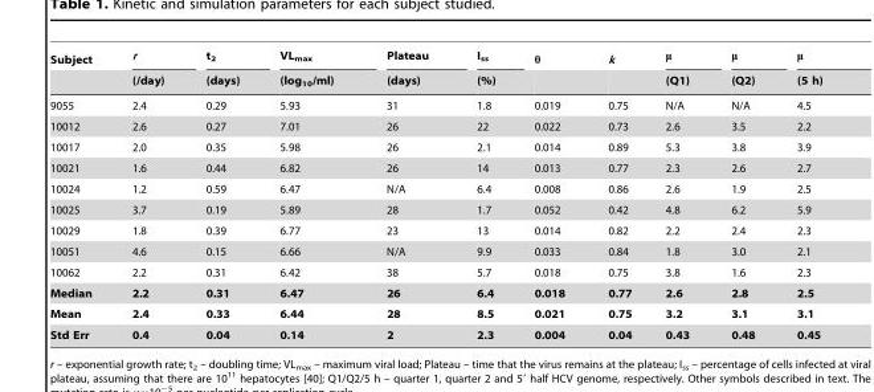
<table><thead><tr><td rowspan="2">Subject</td><td rowspan="2">r (/day)</td><td rowspan="2">t<sub>2</sub> (days)</td><td rowspan="2">VL<sub>max</sub> (log<sub>10</sub>/ml)</td><td rowspan="2">Plateau (days)</td><td rowspan="2">I<sub>ss</sub> (%)</td><td rowspan="2">θ</td><td rowspan="2">k</td><td rowspan="2">μ (Q1)</td><td rowspan="2">μ (Q2)</td><td rowspan="2">μ (5 h)</td></tr><tr></tr></thead><tbody><tr><td>9055</td><td>2.4</td><td>0.29</td><td>5.93</td><td>31</td><td>1.8</td><td>0.019</td><td>0.75</td><td>N/A</td><td>N/A</td><td>4.5</td></tr><tr><td>10012</td><td>2.6</td><td>0.27</td><td>7.01</td><td>26</td><td>22</td><td>0.022</td><td>0.73</td><td>2.6</td><td>3.5</td><td>2.2</td></tr><tr><td>10017</td><td>2.0</td><td>0.35</td><td>5.98</td><td>26</td><td>2.1</td><td>0.014</td><td>0.89</td><td>5.3</td><td>3.8</td><td>3.9</td></tr><tr><td>10021</td><td>1.6</td><td>0.44</td><td>6.82</td><td>26</td><td>14</td><td>0.013</td><td>0.77</td><td>2.3</td><td>2.6</td><td>2.7</td></tr><tr><td>10024</td><td>1.2</td><td>0.59</td><td>6.47</td><td>N/A</td><td>6.4</td><td>0.008</td><td>0.86</td><td>2.6</td><td>1.9</td><td>2.5</td></tr><tr><td>10025</td><td>3.7</td><td>0.19</td><td>5.89</td><td>28</td><td>1.7</td><td>0.052</td><td>0.42</td><td>4.8</td><td>6.2</td><td>5.9</td></tr><tr><td>10029</td><td>1.8</td><td>0.39</td><td>6.77</td><td>23</td><td>13</td><td>0.014</td><td>0.82</td><td>2.2</td><td>2.4</td><td>2.3</td></tr><tr><td>10051</td><td>4.6</td><td>0.15</td><td>6.66</td><td>N/A</td><td>9.9</td><td>0.033</td><td>0.84</td><td>1.8</td><td>3.0</td><td>2.1</td></tr><tr><td>10062</td><td>2.2</td><td>0.31</td><td>6.42</td><td>38</td><td>5.7</td><td>0.018</td><td>0.75</td><td>3.8</td><td>1.6</td><td>2.3</td></tr><tr><td>Median</td><td>2.2</td><td>0.31</td><td>6.47</td><td>26</td><td>6.4</td><td>0.018</td><td>0.77</td><td>2.6</td><td>2.8</td><td>2.5</td></tr><tr><td>Mean</td><td>2.4</td><td>0.33</td><td>6.44</td><td>28</td><td>8.5</td><td>0.021</td><td>0.75</td><td>3.2</td><td>3.1</td><td>3.1</td></tr><tr><td>Std Err</td><td>0.4</td><td>0.04</td><td>0.14</td><td>2</td><td>2.3</td><td>0.004</td><td>0.04</td><td>0.43</td><td>0.48</td><td>0.45</td></tr></tbody></table>